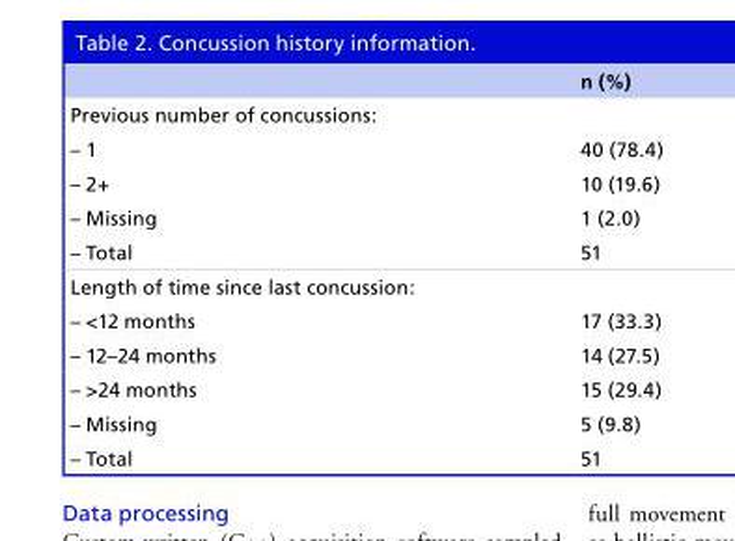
<table><thead><tr><td></td><td>n (%)</td></tr></thead><tbody><tr><td colspan="2">Previous number of concussions:</td></tr><tr><td>– 1</td><td>40 (78.4)</td></tr><tr><td>– 2+</td><td>10 (19.6)</td></tr><tr><td>– Missing</td><td>1 (2.0)</td></tr><tr><td>– Total</td><td>51</td></tr><tr><td colspan="2">Length of time since last concussion:</td></tr><tr><td>– &lt;12 months</td><td>17 (33.3)</td></tr><tr><td>– 12–24 months</td><td>14 (27.5)</td></tr><tr><td>– &gt;24 months</td><td>15 (29.4)</td></tr><tr><td>– Missing</td><td>5 (9.8)</td></tr><tr><td>– Total</td><td>51</td></tr></tbody></table>